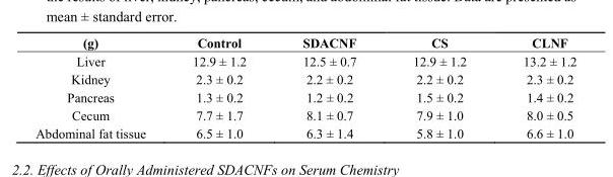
<table><thead><tr><td>(g)</td><td>Control</td><td>SDACNF</td><td>CS</td><td>CLNF</td></tr></thead><tbody><tr><td>Liver</td><td>12.9 ± 1.2</td><td>12.5 ± 0.7</td><td>12.9 ± 1.2</td><td>13.2 ± 1.2</td></tr><tr><td>Kidney</td><td>2.3 ± 0.2</td><td>2.2 ± 0.2</td><td>2.2 ± 0.2</td><td>2.3 ± 0.2</td></tr><tr><td>Pancreas</td><td>1.3 ± 0.2</td><td>1.2 ± 0.2</td><td>1.5 ± 0.2</td><td>1.4 ± 0.2</td></tr><tr><td>Cecum</td><td>7.7 ± 1.7</td><td>8.1 ± 0.7</td><td>7.9 ± 1.0</td><td>8.0 ± 0.5</td></tr><tr><td>Abdominal fat tissue</td><td>6.5 ± 1.0</td><td>6.3 ± 1.4</td><td>5.8 ± 1.0</td><td>6.6 ± 1.0</td></tr></tbody></table>